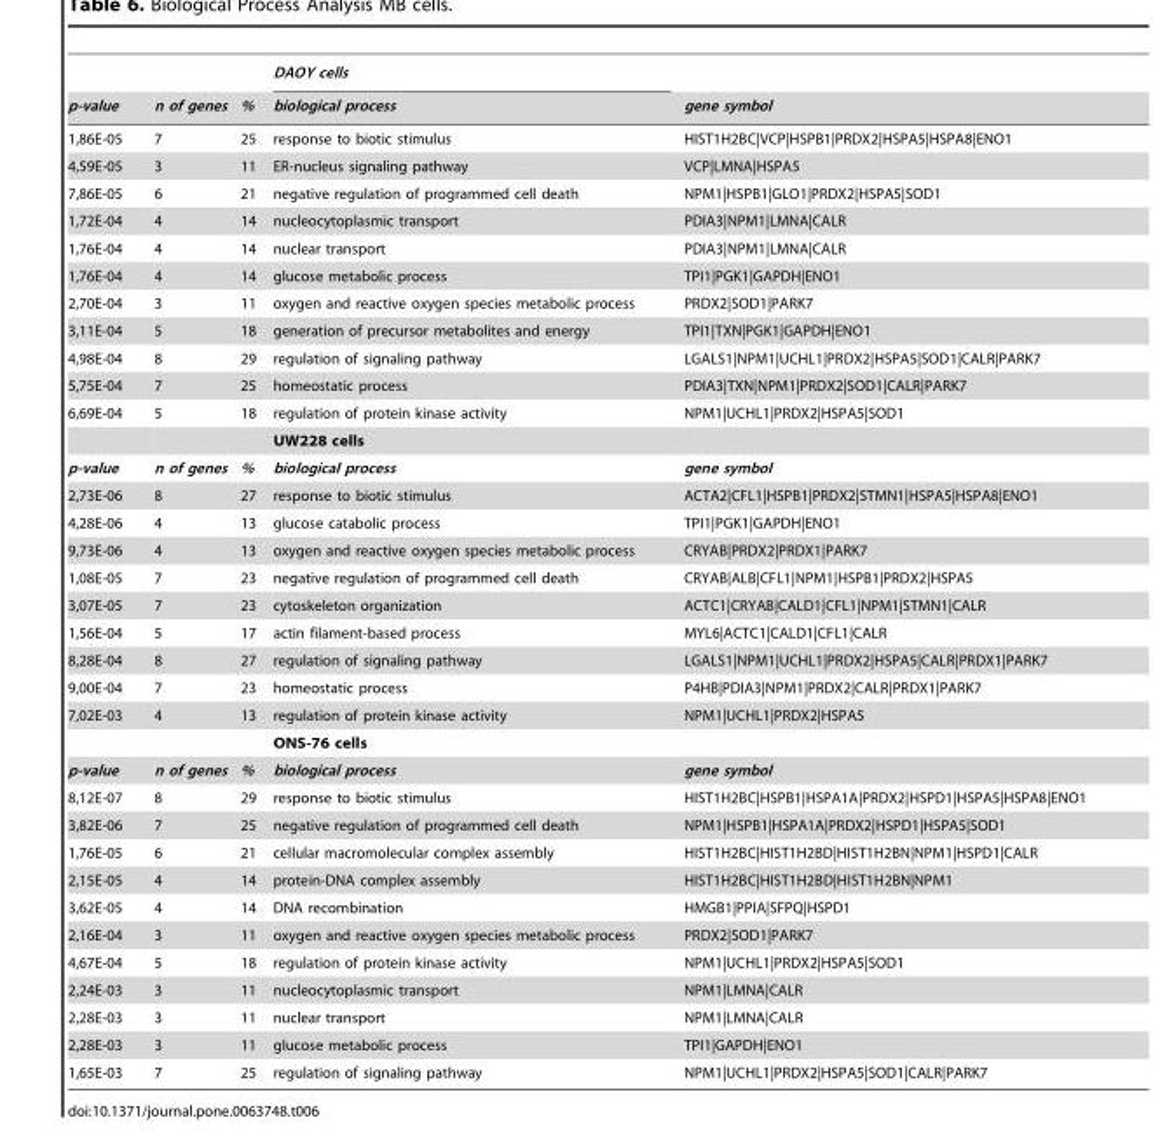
<table><thead><tr><td rowspan="2">p-value</td><td rowspan="2">n of genes</td><td rowspan="2">%</td><td rowspan="2">DAOY cells biological process</td><td rowspan="2">gene symbol</td></tr><tr></tr></thead><tbody><tr><td>1,86E-05</td><td>7</td><td>25</td><td>response to biotic stimulus</td><td>HIST1H2BC|VCP|HSPB1|PRDX2|HSPA5|HSPA8|ENO1</td></tr><tr><td>4,59E-05</td><td>3</td><td>11</td><td>ER-nucleus signaling pathway</td><td>VCP|LMNA|HSPA5</td></tr><tr><td>7,86E-05</td><td>6</td><td>21</td><td>negative regulation of programmed cell death</td><td>NPM1|HSPB1|GLO1|PRDX2|HSPA5|SOD1</td></tr><tr><td>1,72E-04</td><td>4</td><td>14</td><td>nucleocytoplasmic transport</td><td>PDIA3|NPM1|LMNA|CALR</td></tr><tr><td>1,76E-04</td><td>4</td><td>14</td><td>nuclear transport</td><td>PDIA3|NPM1|LMNA|CALR</td></tr><tr><td>1,76E-04</td><td>4</td><td>14</td><td>glucose metabolic process</td><td>TPI1|PGK1|GAPDH|ENO1</td></tr><tr><td>2,70E-04</td><td>3</td><td>11</td><td>oxygen and reactive oxygen species metabolic process</td><td>PRDX2|SOD1|PARK7</td></tr><tr><td>3,11E-04</td><td>5</td><td>18</td><td>generation of precursor metabolites and energy</td><td>TPI1|TXN|PGK1|GAPDH|ENO1</td></tr><tr><td>4,98E-04</td><td>8</td><td>29</td><td>regulation of signaling pathway</td><td>LGALS1|NPM1|UCHL1|PRDX2|HSPA5|SOD1|CALR|PARK7</td></tr><tr><td>5,75E-04</td><td>7</td><td>25</td><td>homeostatic process</td><td>PDIA3|TXN|NPM1|PRDX2|SOD1|CALR|PARK7</td></tr><tr><td rowspan="2">6,69E-04</td><td>5</td><td>18</td><td>regulation of protein kinase activity</td><td>NPM1|UCHL1|PRDX2|HSPA5|SOD1</td></tr><tr><td></td><td></td><td>UW228 cells</td><td></td></tr><tr><td>p-value</td><td>n of genes</td><td>%</td><td>biological process</td><td>gene symbol</td></tr><tr><td>2,73E-06</td><td>8</td><td>27</td><td>response to biotic stimulus</td><td>ACTA2|CFL1|HSPB1|PRDX2|STMN1|HSPA5|HSPA8|ENO1</td></tr><tr><td>4,28E-06</td><td>4</td><td>13</td><td>glucose catabolic process</td><td>TPI1|PGK1|GAPDH|ENO1</td></tr><tr><td>9,73E-06</td><td>4</td><td>13</td><td>oxygen and reactive oxygen species metabolic process</td><td>CRYAB|PRDX2|PRDX1|PARK7</td></tr><tr><td>1,08E-05</td><td>7</td><td>23</td><td>negative regulation of programmed cell death</td><td>CRYAB|ALB|CFL1|NPM1|HSPB1|PRDX2|HSPA5</td></tr><tr><td>3,07E-05</td><td>7</td><td>23</td><td>cytoskeleton organization</td><td>ACTC1|CRYAB|CALD1|CFL1|NPM1|STMN1|CALR</td></tr><tr><td>1,56E-04</td><td>5</td><td>17</td><td>actin filament-based process</td><td>MYL6|ACTC1|CALD1|CFL1|CALR</td></tr><tr><td>8,28E-04</td><td>8</td><td>27</td><td>regulation of signaling pathway</td><td>LGALS1|NPM1|UCHL1|PRDX2|HSPA5|CALR|PRDX1|PARK7</td></tr><tr><td>9,00E-04</td><td>7</td><td>23</td><td>homeostatic process</td><td>P4HB|PDIA3|NPM1|PRDX2|CALR|PRDX1|PARK7</td></tr><tr><td rowspan="2">7,02E-03</td><td>4</td><td>13</td><td>regulation of protein kinase activity</td><td>NPM1|UCHL1|PRDX2|HSPA5</td></tr><tr><td></td><td></td><td>ONS-76 cells</td><td></td></tr><tr><td>p-value</td><td>n of genes</td><td>%</td><td>biological process</td><td>gene symbol</td></tr><tr><td>8,12E-07</td><td>8</td><td>29</td><td>response to biotic stimulus</td><td>HIST1H2BC|HSPB1|HSPA1A|PRDX2|HSPD1|HSPA5|HSPA8|ENO1</td></tr><tr><td>3,82E-06</td><td>7</td><td>25</td><td>negative regulation of programmed cell death</td><td>NPM1|HSPB1|HSPA1A|PRDX2|HSPD1|HSPA5|SOD1</td></tr><tr><td>1,76E-05</td><td>6</td><td>21</td><td>cellular macromolecular complex assembly</td><td>HIST1H2BC|HIST1H2BD|HIST1H2BN|NPM1|HSPD1|CALR</td></tr><tr><td>2,15E-05</td><td>4</td><td>14</td><td>protein-DNA complex assembly</td><td>HIST1H2BC|HIST1H2BD|HIST1H2BN|NPM1</td></tr><tr><td>3,62E-05</td><td>4</td><td>14</td><td>DNA recombination</td><td>HMGB1|PPIA|SFPQ|HSPD1</td></tr><tr><td>2,16E-04</td><td>3</td><td>11</td><td>oxygen and reactive oxygen species metabolic process</td><td>PRDX2|SOD1|PARK7</td></tr><tr><td>4,67E-04</td><td>5</td><td>18</td><td>regulation of protein kinase activity</td><td>NPM1|UCHL1|PRDX2|HSPA5|SOD1</td></tr><tr><td>2,24E-03</td><td>3</td><td>11</td><td>nucleocytoplasmic transport</td><td>NPM1|LMNA|CALR</td></tr><tr><td>2,28E-03</td><td>3</td><td>11</td><td>nuclear transport</td><td>NPM1|LMNA|CALR</td></tr><tr><td>2,28E-03</td><td>3</td><td>11</td><td>glucose metabolic process</td><td>TPI1|GAPDH|ENO1</td></tr><tr><td>1,65E-03</td><td>7</td><td>25</td><td>regulation of signaling pathway</td><td>NPM1|UCHL1|PRDX2|HSPA5|SOD1|CALR|PARK7</td></tr></tbody></table>